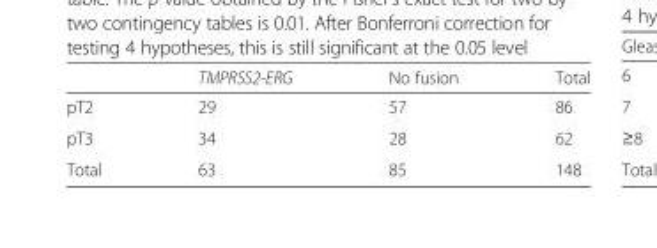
<table><thead><tr><td></td><td>TMPRSS2-ERG</td><td>No fusion</td><td>Total</td></tr></thead><tbody><tr><td>pT2</td><td>29</td><td>57</td><td>86</td></tr><tr><td>pT3</td><td>34</td><td>28</td><td>62</td></tr><tr><td>Total</td><td>63</td><td>85</td><td>148</td></tr></tbody></table>